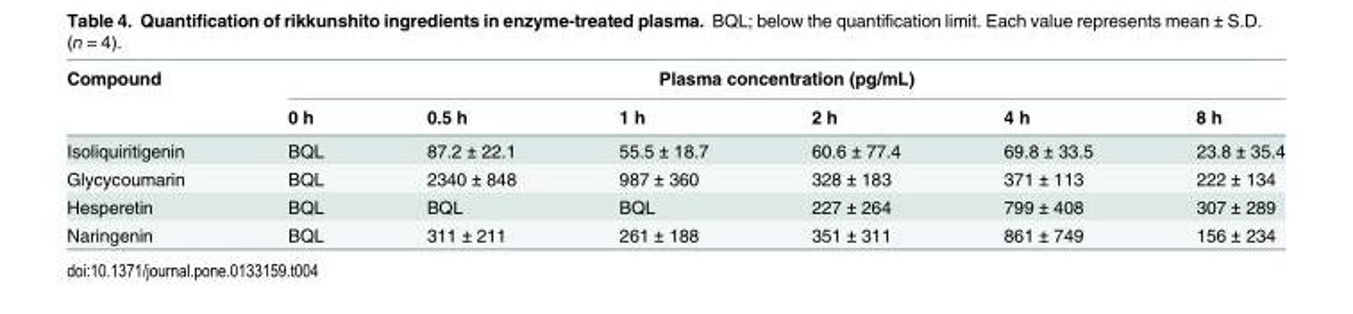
<table><thead><tr><td rowspan="2">Compound</td><td colspan="6">Plasma concentration (pg/mL)</td></tr><tr><td>0 h</td><td>0.5 h</td><td>1 h</td><td>2 h</td><td>4 h</td><td>8 h</td></tr></thead><tbody><tr><td>Isoliquiritigenin</td><td>BQL</td><td>87.2 ± 22.1</td><td>55.5 ± 18.7</td><td>60.6 ± 77.4</td><td>69.8 ± 33.5</td><td>23.8 ± 35.4</td></tr><tr><td>Glycycoumarin</td><td>BQL</td><td>2340 ± 848</td><td>987 ± 360</td><td>328 ± 183</td><td>371 ± 113</td><td>222 ± 134</td></tr><tr><td>Hesperetin</td><td>BQL</td><td>BQL</td><td>BQL</td><td>227 ± 264</td><td>799 ± 408</td><td>307 ± 289</td></tr><tr><td>Naringenin</td><td>BQL</td><td>311 ± 211</td><td>261 ± 188</td><td>351 ± 311</td><td>861 ± 749</td><td>156 ± 234</td></tr></tbody></table>